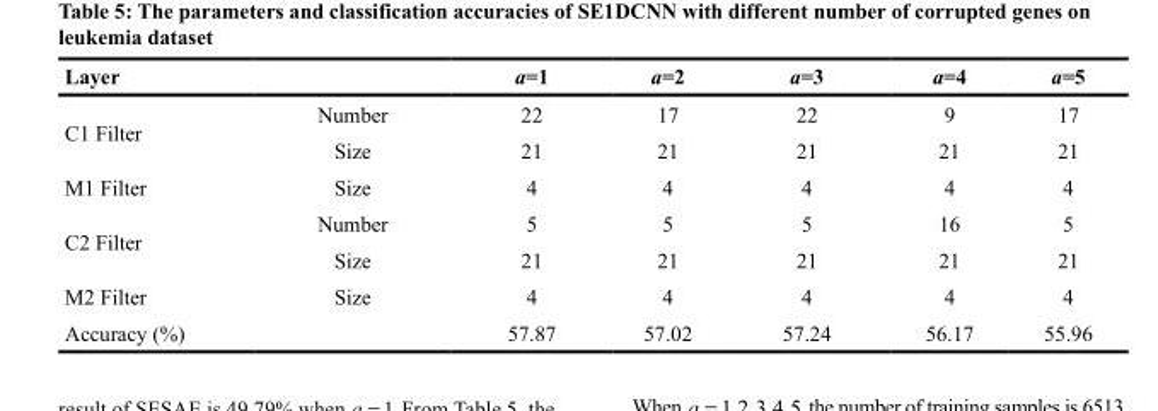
<table><thead><tr><td>Layer</td><td></td><td>a=1</td><td>a=2</td><td>a=3</td><td>a=4</td><td>a=5</td></tr></thead><tbody><tr><td rowspan="2">C1 Filter</td><td>Number</td><td>22</td><td>17</td><td>22</td><td>9</td><td>17</td></tr><tr><td>Size</td><td>21</td><td>21</td><td>21</td><td>21</td><td>21</td></tr><tr><td>M1 Filter</td><td>Size</td><td>4</td><td>4</td><td>4</td><td>4</td><td>4</td></tr><tr><td rowspan="2">C2 Filter</td><td>Number</td><td>5</td><td>5</td><td>5</td><td>16</td><td>5</td></tr><tr><td>Size</td><td>21</td><td>21</td><td>21</td><td>21</td><td>21</td></tr><tr><td>M2 Filter</td><td>Size</td><td>4</td><td>4</td><td>4</td><td>4</td><td>4</td></tr><tr><td colspan="2">Accuracy (%)</td><td>57.87</td><td>57.02</td><td>57.24</td><td>56.17</td><td>55.96</td></tr></tbody></table>